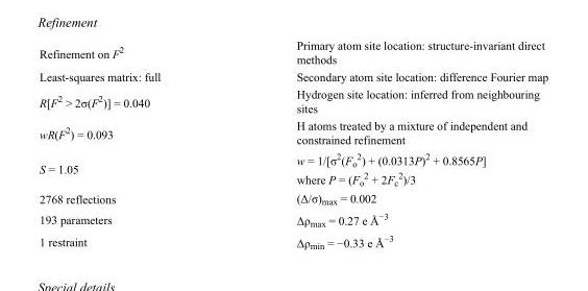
<table><tbody><tr><td>Refinement on F<sup>2</sup></td><td>Primary atom site location: structure-invariant direct methods</td></tr><tr><td>Least-squares matrix: full</td><td>Secondary atom site location: difference Fourier map</td></tr><tr><td>R[F<sup>2</sup> &gt; 2σ(F<sup>2</sup>)] = 0.040</td><td>Hydrogen site location: inferred from neighbouring sites</td></tr><tr><td>wR(F<sup>2</sup>) = 0.093</td><td>H atoms treated by a mixture of independent and constrained refinement</td></tr><tr><td>S = 1.05</td><td>w = 1/[σ<sup>2</sup>(F<sub>o</sub> <sup>2</sup>) + (0.0313P)<sup>2</sup> + 0.8565P] where P = (F<sub>o</sub> <sup>2</sup> + 2F<sub>c</sub> <sup>2</sup>)/3</td></tr><tr><td>2768 reflections</td><td>(Δ/σ)<sub>max</sub> = 0.002</td></tr><tr><td>193 parameters</td><td>Δρ<sub>max</sub> = 0.27 e Å<sup>−3</sup></td></tr><tr><td>1 restraint</td><td>Δρ<sub>min</sub> = −0.33 e Å<sup>−3</sup></td></tr></tbody></table>